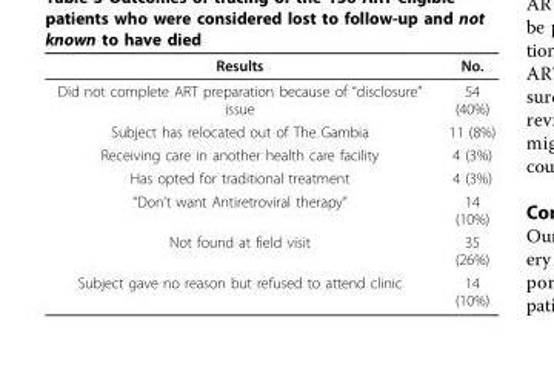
<table><thead><tr><td>Results</td><td>No.</td></tr></thead><tbody><tr><td>Did not complete ART preparation because of “disclosure” issue</td><td>54 (40%)</td></tr><tr><td>Subject has relocated out of The Gambia</td><td>11 (8%)</td></tr><tr><td>Receiving care in another health care facility</td><td>4 (3%)</td></tr><tr><td>Has opted for traditional treatment</td><td>4 (3%)</td></tr><tr><td>“Don’t want Antiretroviral therapy”</td><td>14 (10%)</td></tr><tr><td>Not found at field visit</td><td>35 (26%)</td></tr><tr><td>Subject gave no reason but refused to attend clinic</td><td>14 (10%)</td></tr></tbody></table>